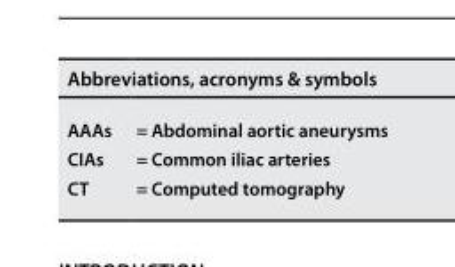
<table><thead><tr><td colspan="2">Abbreviations, acronyms &amp; symbols</td></tr><tr><td>AAAs</td><td>= Abdominal aortic aneurysms</td></tr></thead><tbody><tr><td>CIAs</td><td>= Common iliac arteries</td></tr><tr><td>CT</td><td>= Computed tomography</td></tr></tbody></table>